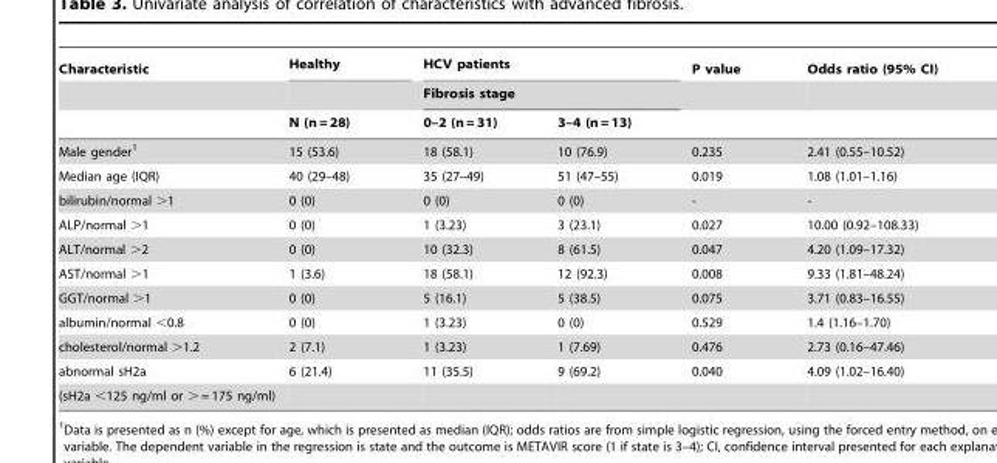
<table><thead><tr><td rowspan="3">Characteristic</td><td rowspan="3">Healthy N (n = 28)</td><td rowspan="2" colspan="2">HCV patients Fibrosis stage</td><td rowspan="3">P value</td><td rowspan="3">Odds ratio (95% CI)</td></tr><tr></tr><tr><td>0–2 (n = 31)</td><td>3–4 (n = 13)</td></tr></thead><tbody><tr><td>Male gender<sup>1</sup></td><td>15 (53.6)</td><td>18 (58.1)</td><td>10 (76.9)</td><td>0.235</td><td>2.41 (0.55–10.52)</td></tr><tr><td>Median age (IQR)</td><td>40 (29–48)</td><td>35 (27–49)</td><td>51 (47–55)</td><td>0.019</td><td>1.08 (1.01–1.16)</td></tr><tr><td>bilirubin/normal &gt;1</td><td>0 (0)</td><td>0 (0)</td><td>0 (0)</td><td>-</td><td>-</td></tr><tr><td>ALP/normal &gt;1</td><td>0 (0)</td><td>1 (3.23)</td><td>3 (23.1)</td><td>0.027</td><td>10.00 (0.92–108.33)</td></tr><tr><td>ALT/normal &gt;2</td><td>0 (0)</td><td>10 (32.3)</td><td>8 (61.5)</td><td>0.047</td><td>4.20 (1.09–17.32)</td></tr><tr><td>AST/normal &gt;1</td><td>1 (3.6)</td><td>18 (58.1)</td><td>12 (92.3)</td><td>0.008</td><td>9.33 (1.81–48.24)</td></tr><tr><td>GGT/normal &gt;1</td><td>0 (0)</td><td>5 (16.1)</td><td>5 (38.5)</td><td>0.075</td><td>3.71 (0.83–16.55)</td></tr><tr><td>albumin/normal &lt;0.8</td><td>0 (0)</td><td>1 (3.23)</td><td>0 (0)</td><td>0.529</td><td>1.4 (1.16–1.70)</td></tr><tr><td>cholesterol/normal &gt;1.2</td><td>2 (7.1)</td><td>1 (3.23)</td><td>1 (7.69)</td><td>0.476</td><td>2.73 (0.16–47.46)</td></tr><tr><td>abnormal sH2a</td><td>6 (21.4)</td><td>11 (35.5)</td><td>9 (69.2)</td><td>0.040</td><td>4.09 (1.02–16.40)</td></tr><tr><td>(sH2a &lt;125 ng/ml or &gt; = 175 ng/ml)</td><td></td><td></td><td></td><td></td><td></td></tr></tbody></table>